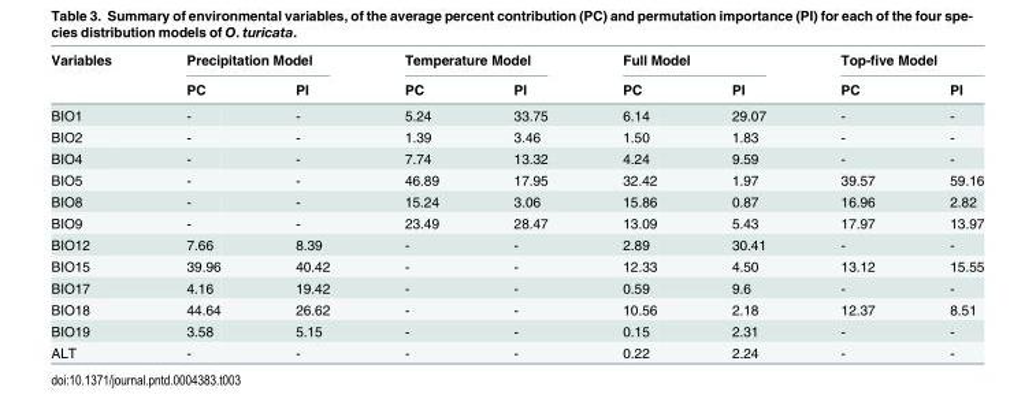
<table><thead><tr><td rowspan="2">Variables</td><td colspan="2">Precipitation Model</td><td colspan="2">Temperature Model</td><td colspan="2">Full Model</td><td colspan="2">Top-five Model</td></tr><tr><td>PC</td><td>PI</td><td>PC</td><td>PI</td><td>PC</td><td>PI</td><td>PC</td><td>PI</td></tr></thead><tbody><tr><td>BIO1</td><td>-</td><td>-</td><td>5.24</td><td>33.75</td><td>6.14</td><td>29.07</td><td>-</td><td>-</td></tr><tr><td>BIO2</td><td>-</td><td>-</td><td>1.39</td><td>3.46</td><td>1.50</td><td>1.83</td><td>-</td><td>-</td></tr><tr><td>BIO4</td><td>-</td><td>-</td><td>7.74</td><td>13.32</td><td>4.24</td><td>9.59</td><td>-</td><td>-</td></tr><tr><td>BIO5</td><td>-</td><td>-</td><td>46.89</td><td>17.95</td><td>32.42</td><td>1.97</td><td>39.57</td><td>59.16</td></tr><tr><td>BIO8</td><td>-</td><td>-</td><td>15.24</td><td>3.06</td><td>15.86</td><td>0.87</td><td>16.96</td><td>2.82</td></tr><tr><td>BIO9</td><td>-</td><td>-</td><td>23.49</td><td>28.47</td><td>13.09</td><td>5.43</td><td>17.97</td><td>13.97</td></tr><tr><td>BIO12</td><td>7.66</td><td>8.39</td><td>-</td><td>-</td><td>2.89</td><td>30.41</td><td>-</td><td>-</td></tr><tr><td>BIO15</td><td>39.96</td><td>40.42</td><td>-</td><td>-</td><td>12.33</td><td>4.50</td><td>13.12</td><td>15.55</td></tr><tr><td>BIO17</td><td>4.16</td><td>19.42</td><td>-</td><td>-</td><td>0.59</td><td>9.6</td><td>-</td><td>-</td></tr><tr><td>BIO18</td><td>44.64</td><td>26.62</td><td>-</td><td>-</td><td>10.56</td><td>2.18</td><td>12.37</td><td>8.51</td></tr><tr><td>BIO19</td><td>3.58</td><td>5.15</td><td>-</td><td>-</td><td>0.15</td><td>2.31</td><td>-</td><td>-</td></tr><tr><td>ALT</td><td>-</td><td>-</td><td>-</td><td>-</td><td>0.22</td><td>2.24</td><td>-</td><td>-</td></tr></tbody></table>